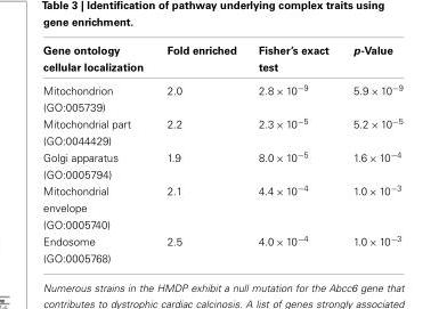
<table><thead><tr><td>Gene ontology cellular localization</td><td>Fold enriched</td><td>Fisher’s exact test</td><td>p-Value</td></tr></thead><tbody><tr><td>Mitochondrion (GO:005739)</td><td>2.0</td><td>2.8 × 10<sup>−9</sup></td><td>5.9 × 10<sup>−9</sup></td></tr><tr><td>Mitochondrial part (GO:0044429)</td><td>2.2</td><td>2.3 × 10<sup>−5</sup></td><td>5.2 × 10<sup>−5</sup></td></tr><tr><td>Golgi apparatus (GO:0005794)</td><td>1.9</td><td>8.0 × 10<sup>−5</sup></td><td>1.6 × 10<sup>−4</sup></td></tr><tr><td>Mitochondrial envelope (GO:0005740)</td><td>2.1</td><td>4.4 × 10<sup>−4</sup></td><td>1.0 × 10<sup>−3</sup></td></tr><tr><td>Endosome (GO:0005768)</td><td>2.5</td><td>4.0 × 10<sup>−4</sup></td><td>1.0 × 10<sup>−3</sup></td></tr></tbody></table>